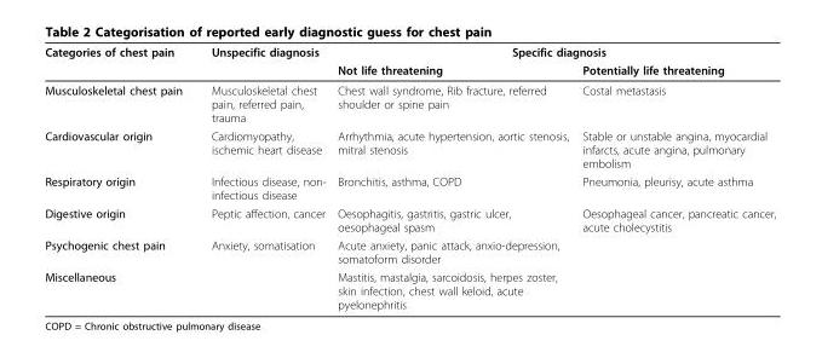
<table><thead><tr><td rowspan="2">Categories of chest pain</td><td rowspan="2">Unspecific diagnosis</td><td colspan="2">Specific diagnosis</td></tr><tr><td>Not life threatening</td><td>Potentially life threatening</td></tr></thead><tbody><tr><td>Musculoskeletal chest pain</td><td>Musculoskeletal chest pain, referred pain, trauma</td><td>Chest wall syndrome, Rib fracture, referred shoulder or spine pain</td><td>Costal metastasis</td></tr><tr><td>Cardiovascular origin</td><td>Cardiomyopathy, ischemic heart disease</td><td>Arrhythmia, acute hypertension, aortic stenosis, mitral stenosis</td><td>Stable or unstable angina, myocardial infarcts, acute angina, pulmonary embolism</td></tr><tr><td>Respiratory origin</td><td>Infectious disease, non- infectious disease</td><td>Bronchitis, asthma, COPD</td><td>Pneumonia, pleurisy, acute asthma</td></tr><tr><td>Digestive origin</td><td>Peptic affection, cancer</td><td>Oesophagitis, gastritis, gastric ulcer, oesophageal spasm</td><td>Oesophageal cancer, pancreatic cancer, acute cholecystitis</td></tr><tr><td>Psychogenic chest pain</td><td>Anxiety, somatisation</td><td>Acute anxiety, panic attack, anxio-depression, somatoform disorder</td><td></td></tr><tr><td>Miscellaneous</td><td></td><td>Mastitis, mastalgia, sarcoidosis, herpes zoster, skin infection, chest wall keloid, acute pyelonephritis</td><td></td></tr></tbody></table>